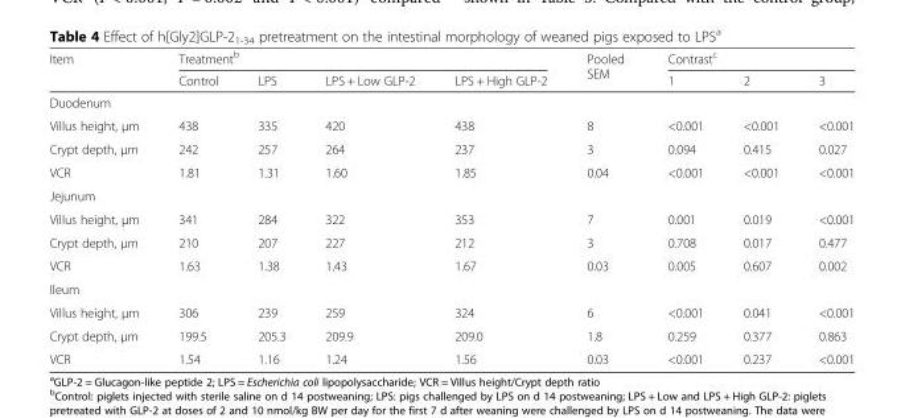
<table><thead><tr><td rowspan="2">Item</td><td colspan="4">Treatment<sup>b</sup></td><td rowspan="2">Pooled SEM</td><td colspan="3">Contrast<sup>c</sup></td></tr><tr><td>Control</td><td>LPS</td><td>LPS + Low GLP-2</td><td>LPS + High GLP-2</td><td>1</td><td>2</td><td>3</td></tr></thead><tbody><tr><td colspan="9">Duodenum</td></tr><tr><td>Villus height, μm</td><td>438</td><td>335</td><td>420</td><td>438</td><td>8</td><td>&lt;0.001</td><td>&lt;0.001</td><td>&lt;0.001</td></tr><tr><td>Crypt depth, μm</td><td>242</td><td>257</td><td>264</td><td>237</td><td>3</td><td>0.094</td><td>0.415</td><td>0.027</td></tr><tr><td>VCR</td><td>1.81</td><td>1.31</td><td>1.60</td><td>1.85</td><td>0.04</td><td>&lt;0.001</td><td>&lt;0.001</td><td>&lt;0.001</td></tr><tr><td colspan="9">Jejunum</td></tr><tr><td>Villus height, μm</td><td>341</td><td>284</td><td>322</td><td>353</td><td>7</td><td>0.001</td><td>0.019</td><td>&lt;0.001</td></tr><tr><td>Crypt depth, μm</td><td>210</td><td>207</td><td>227</td><td>212</td><td>3</td><td>0.708</td><td>0.017</td><td>0.477</td></tr><tr><td>VCR</td><td>1.63</td><td>1.38</td><td>1.43</td><td>1.67</td><td>0.03</td><td>0.005</td><td>0.607</td><td>0.002</td></tr><tr><td colspan="9">Ileum</td></tr><tr><td>Villus height, μm</td><td>306</td><td>239</td><td>259</td><td>324</td><td>6</td><td>&lt;0.001</td><td>0.041</td><td>&lt;0.001</td></tr><tr><td>Crypt depth, μm</td><td>199.5</td><td>205.3</td><td>209.9</td><td>209.0</td><td>1.8</td><td>0.259</td><td>0.377</td><td>0.863</td></tr><tr><td>VCR</td><td>1.54</td><td>1.16</td><td>1.24</td><td>1.56</td><td>0.03</td><td>&lt;0.001</td><td>0.237</td><td>&lt;0.001</td></tr></tbody></table>